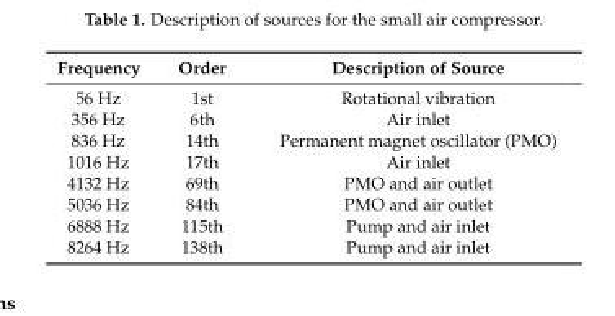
<table><thead><tr><td>Frequency</td><td>Order</td><td>Description of Source</td></tr></thead><tbody><tr><td>56 Hz</td><td>1st</td><td>Rotational vibration</td></tr><tr><td>356 Hz</td><td>6th</td><td>Air inlet</td></tr><tr><td>836 Hz</td><td>14th</td><td>Permanent magnet oscillator (PMO)</td></tr><tr><td>1016 Hz</td><td>17th</td><td>Air inlet</td></tr><tr><td>4132 Hz</td><td>69th</td><td>PMO and air outlet</td></tr><tr><td>5036 Hz</td><td>84th</td><td>PMO and air outlet</td></tr><tr><td>6888 Hz</td><td>115th</td><td>Pump and air inlet</td></tr><tr><td>8264 Hz</td><td>138th</td><td>Pump and air inlet</td></tr></tbody></table>